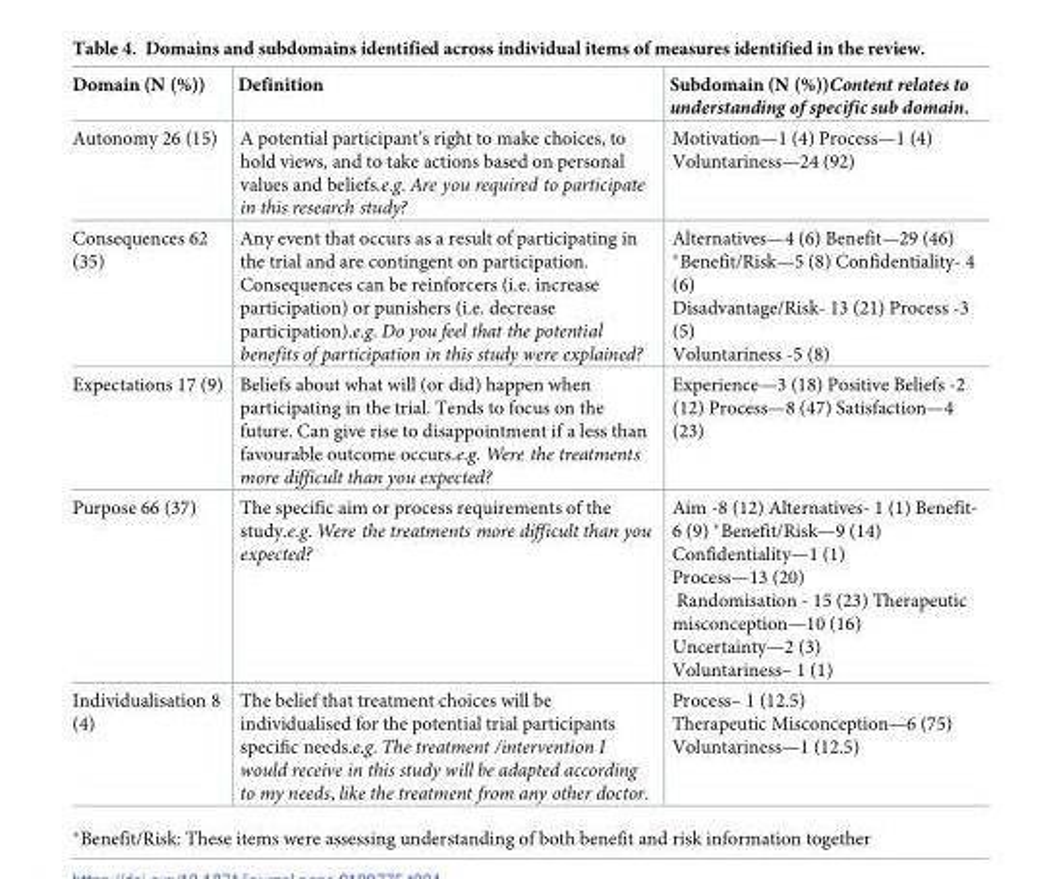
<table><thead><tr><td>Domain (N (%))</td><td>Definition</td><td>Subdomain (N (%))Content relates to understanding of specific sub domain.</td></tr></thead><tbody><tr><td>Autonomy 26 (15)</td><td>A potential participant’s right to make choices, to hold views, and to take actions based on personal values and beliefs.e.g. Are you required to participate in this research study?</td><td>Motivation—1 (4) Process—1 (4) Voluntariness—24 (92)</td></tr><tr><td>Consequences 62 (35)</td><td>Any event that occurs as a result of participating in the trial and are contingent on participation. Consequences can be reinforcers (i.e. increase participation) or punishers (i.e. decrease participation).e.g. Do you feel that the potential benefits of participation in this study were explained?</td><td>Alternatives—4 (6) Benefit—29 (46) *Benefit/Risk—5 (8) Confidentiality- 4 (6) Disadvantage/Risk- 13 (21) Process -3 (5) Voluntariness -5 (8)</td></tr><tr><td>Expectations 17 (9)</td><td>Beliefs about what will (or did) happen when participating in the trial. Tends to focus on the future. Can give rise to disappointment if a less than favourable outcome occurs.e.g. Were the treatments more difficult than you expected?</td><td>Experience—3 (18) Positive Beliefs -2 (12) Process—8 (47) Satisfaction—4 (23)</td></tr><tr><td>Purpose 66 (37)</td><td>The specific aim or process requirements of the study.e.g. Were the treatments more difficult than you expected?</td><td>Aim -8 (12) Alternatives- 1 (1) Benefit- 6 (9) *Benefit/Risk—9 (14) Confidentiality—1 (1) Process—13 (20) Randomisation - 15 (23) Therapeutic misconception—10 (16) Uncertainty—2 (3) Voluntariness– 1 (1)</td></tr><tr><td>Individualisation 8 (4)</td><td>The belief that treatment choices will be individualised for the potential trial participants specific needs.e.g. The treatment /intervention I would receive in this study will be adapted according to my needs, like the treatment from any other doctor.</td><td>Process– 1 (12.5) Therapeutic Misconception—6 (75) Voluntariness—1 (12.5)</td></tr></tbody></table>